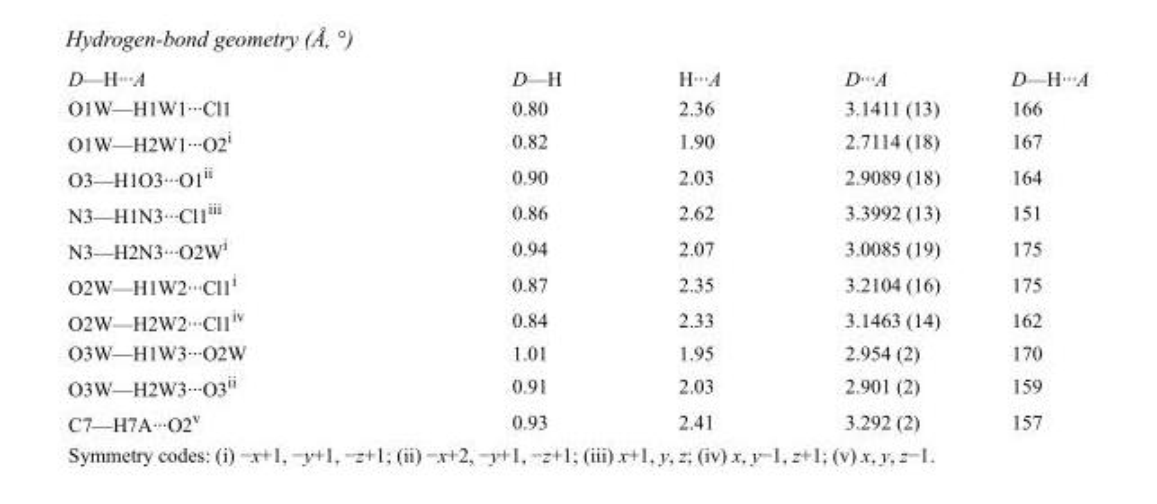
<table><tbody><tr><td>D—H···A</td><td>D—H</td><td>H···A</td><td>D···A</td><td>D—H···A</td></tr><tr><td>O1W—H1W1···Cl1</td><td>0.80</td><td>2.36</td><td>3.1411 (13)</td><td>166</td></tr><tr><td>O1W—H2W1···O2<sup>i</sup></td><td>0.82</td><td>1.90</td><td>2.7114 (18)</td><td>167</td></tr><tr><td>O3—H1O3···O1<sup>ii</sup></td><td>0.90</td><td>2.03</td><td>2.9089 (18)</td><td>164</td></tr><tr><td>N3—H1N3···Cl1<sup>iii</sup></td><td>0.86</td><td>2.62</td><td>3.3992 (13)</td><td>151</td></tr><tr><td>N3—H2N3···O2W<sup>i</sup></td><td>0.94</td><td>2.07</td><td>3.0085 (19)</td><td>175</td></tr><tr><td>O2W—H1W2···Cl1<sup>i</sup></td><td>0.87</td><td>2.35</td><td>3.2104 (16)</td><td>175</td></tr><tr><td>O2W—H2W2···Cl1<sup>iv</sup></td><td>0.84</td><td>2.33</td><td>3.1463 (14)</td><td>162</td></tr><tr><td>O3W—H1W3···O2W</td><td>1.01</td><td>1.95</td><td>2.954 (2)</td><td>170</td></tr><tr><td>O3W—H2W3···O3<sup>ii</sup></td><td>0.91</td><td>2.03</td><td>2.901 (2)</td><td>159</td></tr><tr><td>C7—H7A···O2<sup>v</sup></td><td>0.93</td><td>2.41</td><td>3.292 (2)</td><td>157</td></tr></tbody></table>